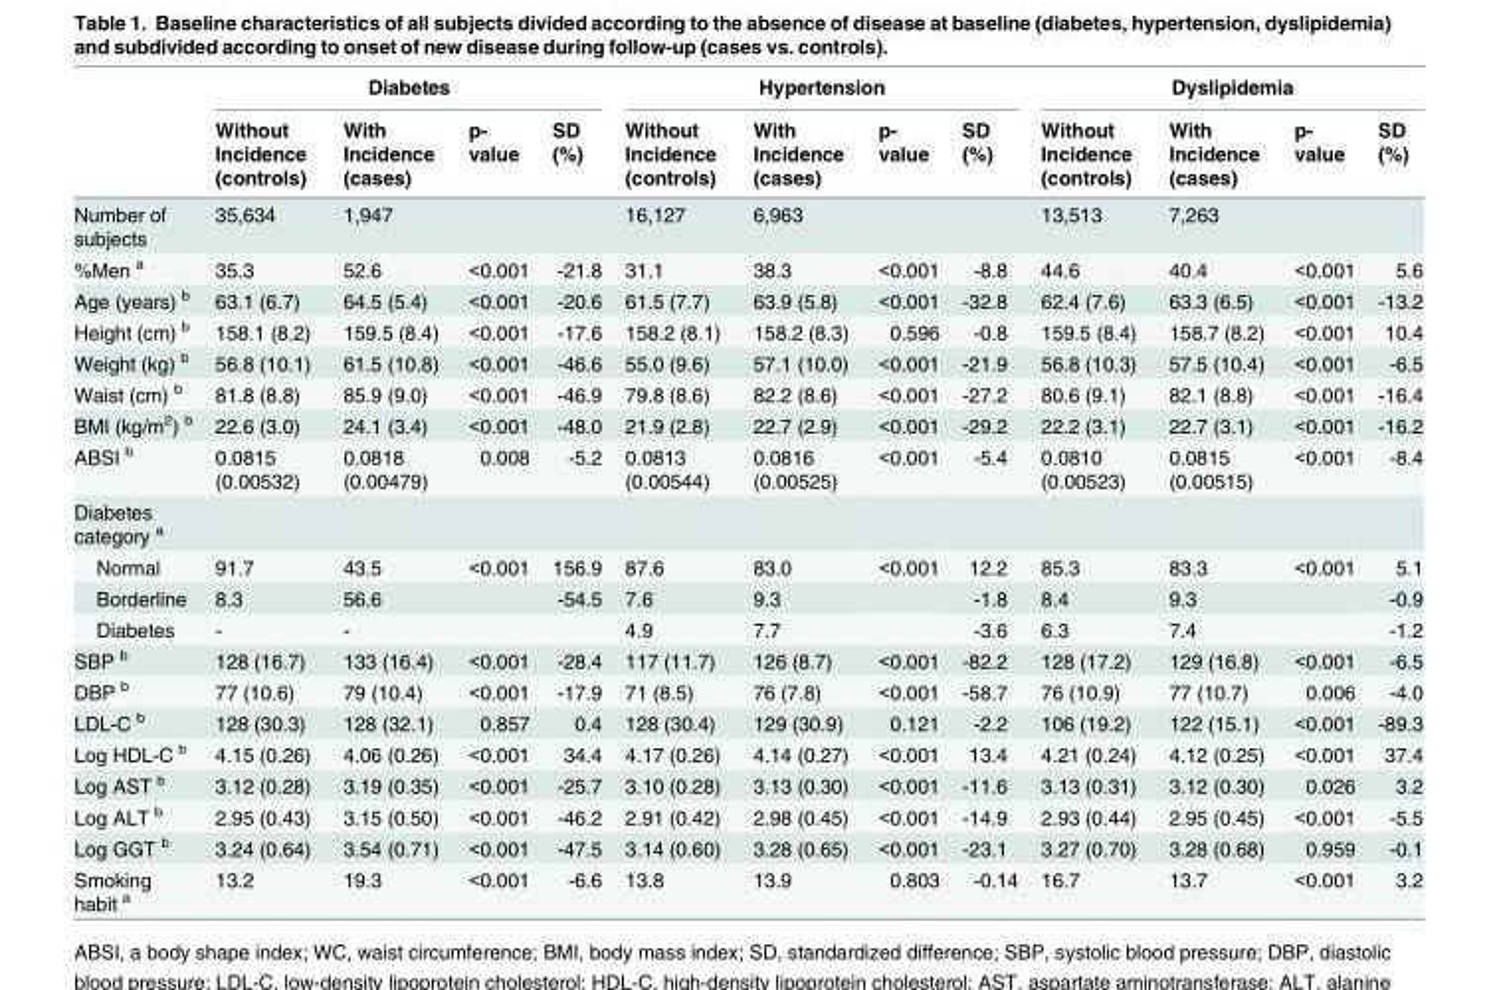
<table><thead><tr><td rowspan="2"></td><td colspan="4">Diabetes</td><td colspan="4">Hypertension</td><td colspan="4">Dyslipidemia</td></tr><tr><td>Without Incidence (controls)</td><td>With Incidence (cases)</td><td>p- value</td><td>SD (%)</td><td>Without Incidence (controls)</td><td>With Incidence (cases)</td><td>p- value</td><td>SD (%)</td><td>Without Incidence (controls)</td><td>With Incidence (cases)</td><td>p- value</td><td>SD (%)</td></tr></thead><tbody><tr><td>Number of subjects</td><td>35,634</td><td>1,947</td><td></td><td></td><td>16,127</td><td>6,963</td><td></td><td></td><td>13,513</td><td>7,263</td><td></td><td></td></tr><tr><td>%Men <sup>a</sup></td><td>35.3</td><td>52.6</td><td>&lt;0.001</td><td>-21.8</td><td>31.1</td><td>38.3</td><td>&lt;0.001</td><td>-8.8</td><td>44.6</td><td>40.4</td><td>&lt;0.001</td><td>5.6</td></tr><tr><td>Age (years) <sup>b</sup></td><td>63.1 (6.7)</td><td>64.5 (5.4)</td><td>&lt;0.001</td><td>-20.6</td><td>61.5 (7.7)</td><td>63.9 (5.8)</td><td>&lt;0.001</td><td>-32.8</td><td>62.4 (7.6)</td><td>63.3 (6.5)</td><td>&lt;0.001</td><td>-13.2</td></tr><tr><td>Height (cm) <sup>b</sup></td><td>158.1 (8.2)</td><td>159.5 (8.4)</td><td>&lt;0.001</td><td>-17.6</td><td>158.2 (8.1)</td><td>158.2 (8.3)</td><td>0.596</td><td>-0.8</td><td>159.5 (8.4)</td><td>158.7 (8.2)</td><td>&lt;0.001</td><td>10.4</td></tr><tr><td>Weight (kg) <sup>b</sup></td><td>56.8 (10.1)</td><td>61.5 (10.8)</td><td>&lt;0.001</td><td>-46.6</td><td>55.0 (9.6)</td><td>57.1 (10.0)</td><td>&lt;0.001</td><td>-21.9</td><td>56.8 (10.3)</td><td>57.5 (10.4)</td><td>&lt;0.001</td><td>-6.5</td></tr><tr><td>Waist (cm) <sup>b</sup></td><td>81.8 (8.8)</td><td>85.9 (9.0)</td><td>&lt;0.001</td><td>-46.9</td><td>79.8 (8.6)</td><td>82.2 (8.6)</td><td>&lt;0.001</td><td>-27.2</td><td>80.6 (9.1)</td><td>82.1 (8.8)</td><td>&lt;0.001</td><td>-16.4</td></tr><tr><td>BMI (kg/m<sup>2</sup>) <sup>b</sup></td><td>22.6 (3.0)</td><td>24.1 (3.4)</td><td>&lt;0.001</td><td>-48.0</td><td>21.9 (2.8)</td><td>22.7 (2.9)</td><td>&lt;0.001</td><td>-29.2</td><td>22.2 (3.1)</td><td>22.7 (3.1)</td><td>&lt;0.001</td><td>-16.2</td></tr><tr><td>ABSI <sup>b</sup></td><td>0.0815 (0.00532)</td><td>0.0818 (0.00479)</td><td>0.008</td><td>-5.2</td><td>0.0813 (0.00544)</td><td>0.0816 (0.00525)</td><td>&lt;0.001</td><td>-5.4</td><td>0.0810 (0.00523)</td><td>0.0815 (0.00515)</td><td>&lt;0.001</td><td>-8.4</td></tr><tr><td colspan="13">Diabetes category <sup>a</sup></td></tr><tr><td>Normal</td><td>91.7</td><td>43.5</td><td>&lt;0.001</td><td>156.9</td><td>87.6</td><td>83.0</td><td>&lt;0.001</td><td>12.2</td><td>85.3</td><td>83.3</td><td>&lt;0.001</td><td>5.1</td></tr><tr><td>Borderline</td><td>8.3</td><td>56.6</td><td></td><td>-54.5</td><td>7.6</td><td>9.3</td><td></td><td>-1.8</td><td>8.4</td><td>9.3</td><td></td><td>-0.9</td></tr><tr><td>Diabetes</td><td>-</td><td>-</td><td></td><td></td><td>4.9</td><td>7.7</td><td></td><td>-3.6</td><td>6.3</td><td>7.4</td><td></td><td>-1.2</td></tr><tr><td>SBP <sup>b</sup></td><td>128 (16.7)</td><td>133 (16.4)</td><td>&lt;0.001</td><td>-28.4</td><td>117 (11.7)</td><td>126 (8.7)</td><td>&lt;0.001</td><td>-82.2</td><td>128 (17.2)</td><td>129 (16.8)</td><td>&lt;0.001</td><td>-6.5</td></tr><tr><td>DBP <sup>b</sup></td><td>77 (10.6)</td><td>79 (10.4)</td><td>&lt;0.001</td><td>-17.9</td><td>71 (8.5)</td><td>76 (7.8)</td><td>&lt;0.001</td><td>-58.7</td><td>76 (10.9)</td><td>77 (10.7)</td><td>0.006</td><td>-4.0</td></tr><tr><td>LDL-C <sup>b</sup></td><td>128 (30.3)</td><td>128 (32.1)</td><td>0.857</td><td>0.4</td><td>128 (30.4)</td><td>129 (30.9)</td><td>0.121</td><td>-2.2</td><td>106 (19.2)</td><td>122 (15.1)</td><td>&lt;0.001</td><td>-89.3</td></tr><tr><td>Log HDL-C <sup>b</sup></td><td>4.15 (0.26)</td><td>4.06 (0.26)</td><td>&lt;0.001</td><td>34.4</td><td>4.17 (0.26)</td><td>4.14 (0.27)</td><td>&lt;0.001</td><td>13.4</td><td>4.21 (0.24)</td><td>4.12 (0.25)</td><td>&lt;0.001</td><td>37.4</td></tr><tr><td>Log AST <sup>b</sup></td><td>3.12 (0.28)</td><td>3.19 (0.35)</td><td>&lt;0.001</td><td>-25.7</td><td>3.10 (0.28)</td><td>3.13 (0.30)</td><td>&lt;0.001</td><td>-11.6</td><td>3.13 (0.31)</td><td>3.12 (0.30)</td><td>0.026</td><td>3.2</td></tr><tr><td>Log ALT <sup>b</sup></td><td>2.95 (0.43)</td><td>3.15 (0.50)</td><td>&lt;0.001</td><td>-46.2</td><td>2.91 (0.42)</td><td>2.98 (0.45)</td><td>&lt;0.001</td><td>-14.9</td><td>2.93 (0.44)</td><td>2.95 (0.45)</td><td>&lt;0.001</td><td>-5.5</td></tr><tr><td>Log GGT <sup>b</sup></td><td>3.24 (0.64)</td><td>3.54 (0.71)</td><td>&lt;0.001</td><td>-47.5</td><td>3.14 (0.60)</td><td>3.28 (0.65)</td><td>&lt;0.001</td><td>-23.1</td><td>3.27 (0.70)</td><td>3.28 (0.68)</td><td>0.959</td><td>-0.1</td></tr><tr><td>Smoking habit <sup>a</sup></td><td>13.2</td><td>19.3</td><td>&lt;0.001</td><td>-6.6</td><td>13.8</td><td>13.9</td><td>0.803</td><td>-0.14</td><td>16.7</td><td>13.7</td><td>&lt;0.001</td><td>3.2</td></tr></tbody></table>